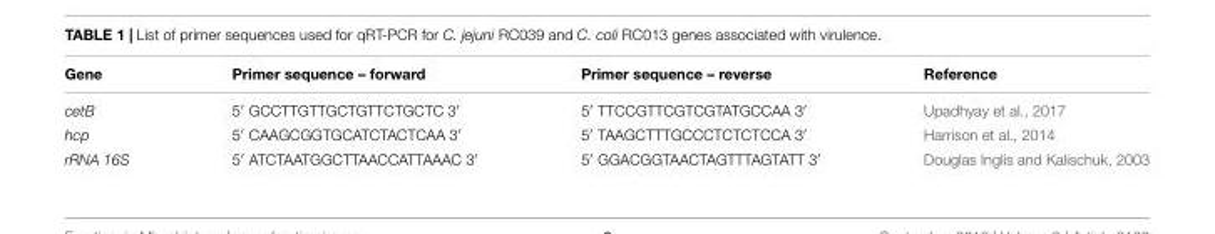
<table><thead><tr><td>Gene</td><td>Primer sequence – forward</td><td>Primer sequence – reverse</td><td>Reference</td></tr></thead><tbody><tr><td>cetB</td><td>5′ GCCTTGTTGCTGTTCTGCTC 3′</td><td>5′ TTCCGTTCGTCGTATGCCAA 3′</td><td>Upadhyay et al., 2017</td></tr><tr><td>hcp</td><td>5′ CAAGCGGTGCATCTACTCAA 3′</td><td>5′ TAAGCTTTGCCCTCTCTCCA 3′</td><td>Harrison et al., 2014</td></tr><tr><td>rRNA 16S</td><td>5′ ATCTAATGGCTTAACCATTAAAC 3′</td><td>5′ GGACGGTAACTAGTTTAGTATT 3′</td><td>Douglas Inglis and Kalischuk, 2003</td></tr></tbody></table>